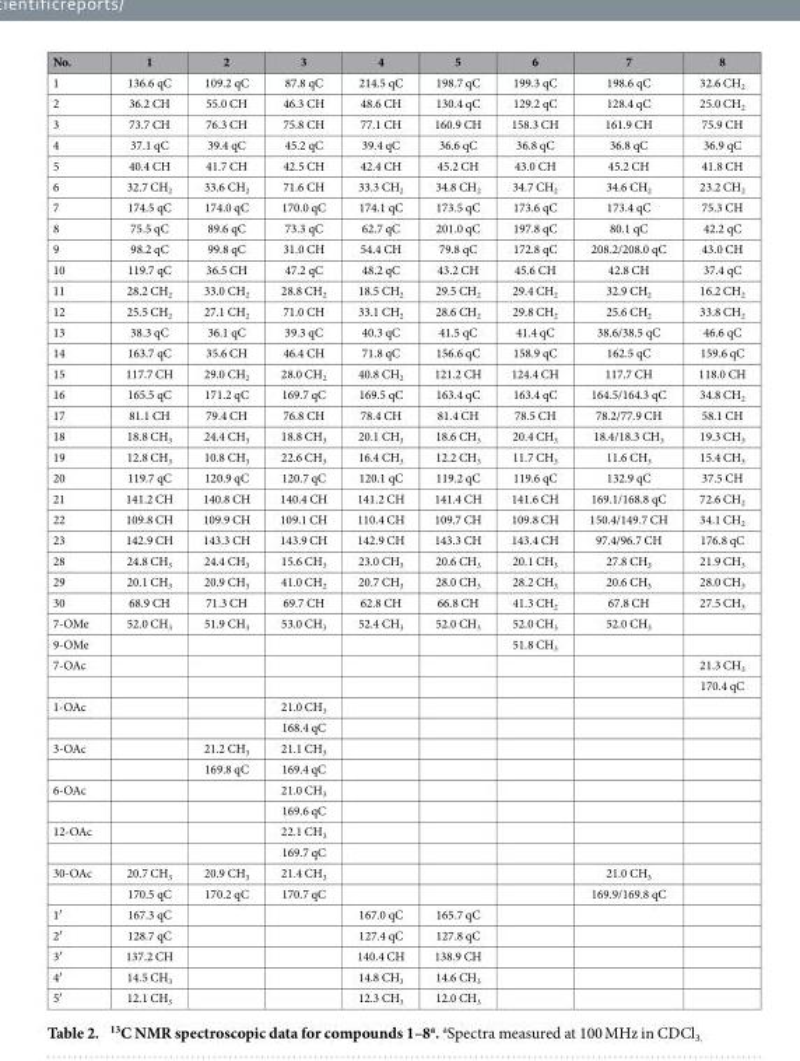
<table><thead><tr><td>No.</td><td>1</td><td>2</td><td>3</td><td>4</td><td>5</td><td>6</td><td>7</td><td>8</td></tr></thead><tbody><tr><td>1</td><td>136.6 qC</td><td>109.2 qC</td><td>87.8 qC</td><td>214.5 qC</td><td>198.7 qC</td><td>199.3 qC</td><td>198.6 qC</td><td>32.6 CH<sub>2</sub></td></tr><tr><td>2</td><td>36.2 CH</td><td>55.0 CH</td><td>46.3 CH</td><td>48.6 CH</td><td>130.4 qC</td><td>129.2 qC</td><td>128.4 qC</td><td>25.0 CH<sub>2</sub></td></tr><tr><td>3</td><td>73.7 CH</td><td>76.3 CH</td><td>75.8 CH</td><td>77.1 CH</td><td>160.9 CH</td><td>158.3 CH</td><td>161.9 CH</td><td>75.9 CH</td></tr><tr><td>4</td><td>37.1 qC</td><td>39.4 qC</td><td>45.2 qC</td><td>39.4 qC</td><td>36.6 qC</td><td>36.8 qC</td><td>36.8 qC</td><td>36.9 qC</td></tr><tr><td>5</td><td>40.4 CH</td><td>41.7 CH</td><td>42.5 CH</td><td>42.4 CH</td><td>45.2 CH</td><td>43.0 CH</td><td>45.2 CH</td><td>41.8 CH</td></tr><tr><td>6</td><td>32.7 CH<sub>2</sub></td><td>33.6 CH<sub>2</sub></td><td>71.6 CH</td><td>33.3 CH<sub>2</sub></td><td>34.8 CH<sub>2</sub></td><td>34.7 CH<sub>2</sub></td><td>34.6 CH<sub>2</sub></td><td>23.2 CH<sub>2</sub></td></tr><tr><td>7</td><td>174.5 qC</td><td>174.0 qC</td><td>170.0 qC</td><td>174.1 qC</td><td>173.5 qC</td><td>173.6 qC</td><td>173.4 qC</td><td>75.3 CH</td></tr><tr><td>8</td><td>75.5 qC</td><td>89.6 qC</td><td>73.3 qC</td><td>62.7 qC</td><td>201.0 qC</td><td>197.8 qC</td><td>80.1 qC</td><td>42.2 qC</td></tr><tr><td>9</td><td>98.2 qC</td><td>99.8 qC</td><td>31.0 CH</td><td>54.4 CH</td><td>79.8 qC</td><td>172.8 qC</td><td>208.2/208.0 qC</td><td>43.0 CH</td></tr><tr><td>10</td><td>119.7 qC</td><td>36.5 CH</td><td>47.2 qC</td><td>48.2 qC</td><td>43.2 CH</td><td>45.6 CH</td><td>42.8 CH</td><td>37.4 qC</td></tr><tr><td>11</td><td>28.2 CH<sub>2</sub></td><td>33.0 CH<sub>2</sub></td><td>28.8 CH<sub>2</sub></td><td>18.5 CH<sub>2</sub></td><td>29.5 CH<sub>2</sub></td><td>29.4 CH<sub>2</sub></td><td>32.9 CH<sub>2</sub></td><td>16.2 CH<sub>2</sub></td></tr><tr><td>12</td><td>25.5 CH<sub>2</sub></td><td>27.1 CH<sub>2</sub></td><td>71.0 CH</td><td>33.1 CH<sub>2</sub></td><td>28.6 CH<sub>2</sub></td><td>29.8 CH<sub>2</sub></td><td>25.6 CH<sub>2</sub></td><td>33.8 CH<sub>2</sub></td></tr><tr><td>13</td><td>38.3 qC</td><td>36.1 qC</td><td>39.3 qC</td><td>40.3 qC</td><td>41.5 qC</td><td>41.4 qC</td><td>38.6/38.5 qC</td><td>46.6 qC</td></tr><tr><td>14</td><td>163.7 qC</td><td>35.6 CH</td><td>46.4 CH</td><td>71.8 qC</td><td>156.6 qC</td><td>158.9 qC</td><td>162.5 qC</td><td>159.6 qC</td></tr><tr><td>15</td><td>117.7 CH</td><td>29.0 CH<sub>2</sub></td><td>28.0 CH<sub>2</sub></td><td>40.8 CH<sub>2</sub></td><td>121.2 CH</td><td>124.4 CH</td><td>117.7 CH</td><td>118.0 CH</td></tr><tr><td>16</td><td>165.5 qC</td><td>171.2 qC</td><td>169.7 qC</td><td>169.5 qC</td><td>163.4 qC</td><td>163.4 qC</td><td>164.5/164.3 qC</td><td>34.8 CH<sub>2</sub></td></tr><tr><td>17</td><td>81.1 CH</td><td>79.4 CH</td><td>76.8 CH</td><td>78.4 CH</td><td>81.4 CH</td><td>78.5 CH</td><td>78.2/77.9 CH</td><td>58.1 CH</td></tr><tr><td>18</td><td>18.8 CH<sub>3</sub></td><td>24.4 CH<sub>3</sub></td><td>18.8 CH<sub>3</sub></td><td>20.1 CH<sub>3</sub></td><td>18.6 CH<sub>3</sub></td><td>20.4 CH<sub>3</sub></td><td>18.4/18.3 CH<sub>3</sub></td><td>19.3 CH<sub>3</sub></td></tr><tr><td>19</td><td>12.8 CH<sub>3</sub></td><td>10.8 CH<sub>3</sub></td><td>22.6 CH<sub>3</sub></td><td>16.4 CH<sub>3</sub></td><td>12.2 CH<sub>3</sub></td><td>11.7 CH<sub>3</sub></td><td>11.6 CH<sub>3</sub></td><td>15.4 CH<sub>3</sub></td></tr><tr><td>20</td><td>119.7 qC</td><td>120.9 qC</td><td>120.7 qC</td><td>120.1 qC</td><td>119.2 qC</td><td>119.6 qC</td><td>132.9 qC</td><td>37.5 CH</td></tr><tr><td>21</td><td>141.2 CH</td><td>140.8 CH</td><td>140.4 CH</td><td>141.2 CH</td><td>141.4 CH</td><td>141.6 CH</td><td>169.1/168.8 qC</td><td>72.6 CH<sub>2</sub></td></tr><tr><td>22</td><td>109.8 CH</td><td>109.9 CH</td><td>109.1 CH</td><td>110.4 CH</td><td>109.7 CH</td><td>109.8 CH</td><td>150.4/149.7 CH</td><td>34.1 CH<sub>2</sub></td></tr><tr><td>23</td><td>142.9 CH</td><td>143.3 CH</td><td>143.9 CH</td><td>142.9 CH</td><td>143.3 CH</td><td>143.4 CH</td><td>97.4/96.7 CH</td><td>176.8 qC</td></tr><tr><td>28</td><td>24.8 CH<sub>3</sub></td><td>24.4 CH<sub>3</sub></td><td>15.6 CH<sub>3</sub></td><td>23.0 CH<sub>3</sub></td><td>20.6 CH<sub>3</sub></td><td>20.1 CH<sub>3</sub></td><td>27.8 CH<sub>3</sub></td><td>21.9 CH<sub>3</sub></td></tr><tr><td>29</td><td>20.1 CH<sub>3</sub></td><td>20.9 CH<sub>3</sub></td><td>41.0 CH<sub>2</sub></td><td>20.7 CH<sub>3</sub></td><td>28.0 CH<sub>3</sub></td><td>28.2 CH<sub>3</sub></td><td>20.6 CH<sub>3</sub></td><td>28.0 CH<sub>3</sub></td></tr><tr><td>30</td><td>68.9 CH</td><td>71.3 CH</td><td>69.7 CH</td><td>62.8 CH</td><td>66.8 CH</td><td>41.3 CH<sub>2</sub></td><td>67.8 CH</td><td>27.5 CH<sub>3</sub></td></tr><tr><td>7-OMe</td><td>52.0 CH<sub>3</sub></td><td>51.9 CH<sub>3</sub></td><td>53.0 CH<sub>3</sub></td><td>52.4 CH<sub>3</sub></td><td>52.0 CH<sub>3</sub></td><td>52.0 CH<sub>3</sub></td><td>52.0 CH<sub>3</sub></td><td></td></tr><tr><td>9-OMe</td><td></td><td></td><td></td><td></td><td></td><td>51.8 CH<sub>3</sub></td><td></td><td></td></tr><tr><td rowspan="2">7-OAc</td><td></td><td></td><td></td><td></td><td></td><td></td><td></td><td>21.3 CH<sub>3</sub></td></tr><tr><td></td><td></td><td></td><td></td><td></td><td></td><td></td><td>170.4 qC</td></tr><tr><td rowspan="2">1-OAc</td><td></td><td></td><td>21.0 CH<sub>3</sub></td><td></td><td></td><td></td><td></td><td></td></tr><tr><td></td><td></td><td>168.4 qC</td><td></td><td></td><td></td><td></td><td></td></tr><tr><td rowspan="2">3-OAc</td><td></td><td>21.2 CH<sub>3</sub></td><td>21.1 CH<sub>3</sub></td><td></td><td></td><td></td><td></td><td></td></tr><tr><td></td><td>169.8 qC</td><td>169.4 qC</td><td></td><td></td><td></td><td></td><td></td></tr><tr><td rowspan="2">6-OAc</td><td></td><td></td><td>21.0 CH<sub>3</sub></td><td></td><td></td><td></td><td></td><td></td></tr><tr><td></td><td></td><td>169.6 qC</td><td></td><td></td><td></td><td></td><td></td></tr><tr><td rowspan="2">12-OAc</td><td></td><td></td><td>22.1 CH<sub>3</sub></td><td></td><td></td><td></td><td></td><td></td></tr><tr><td></td><td></td><td>169.7 qC</td><td></td><td></td><td></td><td></td><td></td></tr><tr><td rowspan="2">30-OAc</td><td>20.7 CH<sub>3</sub></td><td>20.9 CH<sub>3</sub></td><td>21.4 CH<sub>3</sub></td><td></td><td></td><td></td><td>21.0 CH<sub>3</sub></td><td></td></tr><tr><td>170.5 qC</td><td>170.2 qC</td><td>170.7 qC</td><td></td><td></td><td></td><td>169.9/169.8 qC</td><td></td></tr><tr><td>1′</td><td>167.3 qC</td><td></td><td></td><td>167.0 qC</td><td>165.7 qC</td><td></td><td></td><td></td></tr><tr><td>2′</td><td>128.7 qC</td><td></td><td></td><td>127.4 qC</td><td>127.8 qC</td><td></td><td></td><td></td></tr><tr><td>3′</td><td>137.2 CH</td><td></td><td></td><td>140.4 CH</td><td>138.9 CH</td><td></td><td></td><td></td></tr><tr><td>4′</td><td>14.5 CH<sub>3</sub></td><td></td><td></td><td>14.8 CH<sub>3</sub></td><td>14.6 CH<sub>3</sub></td><td></td><td></td><td></td></tr><tr><td>5′</td><td>12.1 CH<sub>3</sub></td><td></td><td></td><td>12.3 CH<sub>3</sub></td><td>12.0 CH<sub>3</sub></td><td></td><td></td><td></td></tr></tbody></table>